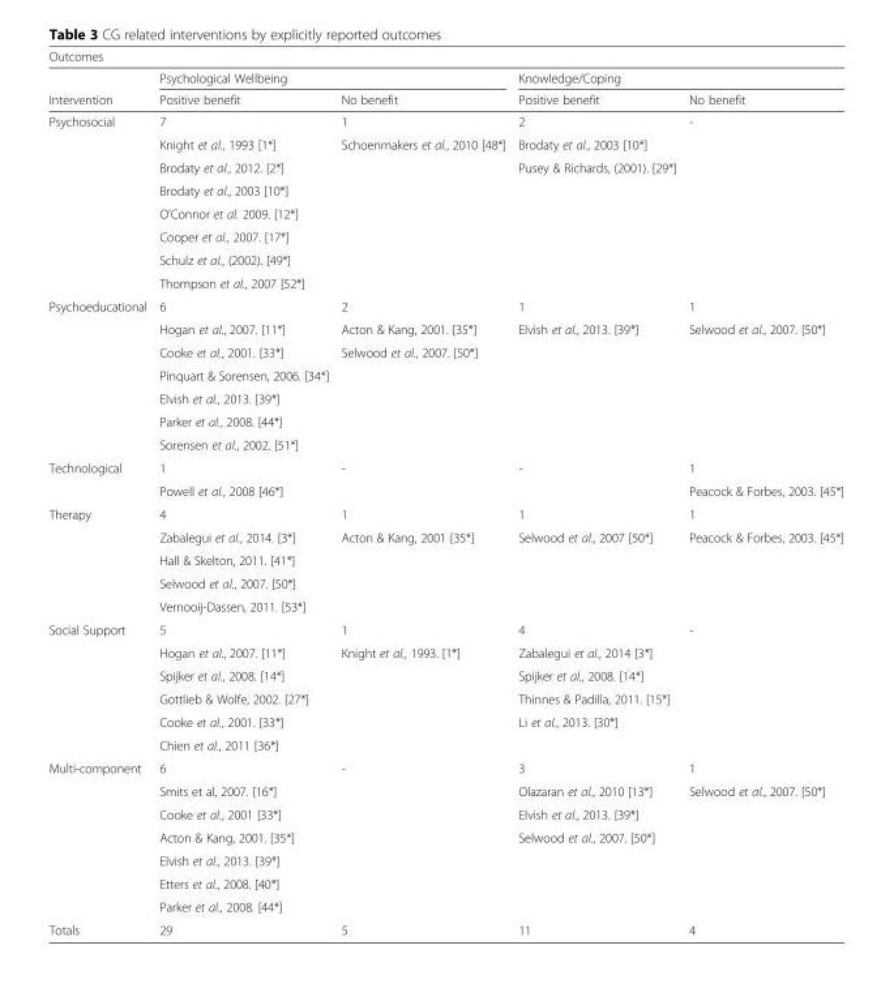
<table><thead><tr><td colspan="5">Outcomes</td></tr><tr><td rowspan="2">Intervention</td><td colspan="2">Psychological Wellbeing</td><td colspan="2">Knowledge/Coping</td></tr><tr><td>Positive benefit</td><td>No benefit</td><td>Positive benefit</td><td>No benefit</td></tr></thead><tbody><tr><td rowspan="8">Psychosocial</td><td>7</td><td>1</td><td>2</td><td>-</td></tr><tr><td>Knight et al., 1993 [1*]</td><td>Schoenmakers et al., 2010 [48*]</td><td>Brodaty et al., 2003 [10*]</td><td></td></tr><tr><td>Brodaty et al., 2012. [2*]</td><td></td><td>Pusey &amp; Richards, (2001). [29*]</td><td></td></tr><tr><td>Brodaty et al., 2003 [10*]</td><td></td><td></td><td></td></tr><tr><td>O’Connor et al. 2009. [12*]</td><td></td><td></td><td></td></tr><tr><td>Cooper et al., 2007. [17*]</td><td></td><td></td><td></td></tr><tr><td>Schulz et al., (2002). [49*]</td><td></td><td></td><td></td></tr><tr><td>Thompson et al., 2007 [52*]</td><td></td><td></td><td></td></tr><tr><td rowspan="7">Psychoeducational</td><td>6</td><td>2</td><td>1</td><td>1</td></tr><tr><td>Hogan et al., 2007. [11*]</td><td>Acton &amp; Kang, 2001. [35*]</td><td>Elvish et al., 2013. [39*]</td><td>Selwood et al., 2007. [50*]</td></tr><tr><td>Cooke et al., 2001. [33*]</td><td>Selwood et al., 2007. [50*]</td><td></td><td></td></tr><tr><td>Pinquart &amp; Sorensen, 2006. [34*]</td><td></td><td></td><td></td></tr><tr><td>Elvish et al., 2013. [39*]</td><td></td><td></td><td></td></tr><tr><td>Parker et al., 2008. [44*]</td><td></td><td></td><td></td></tr><tr><td>Sorensen et al., 2002. [51*]</td><td></td><td></td><td></td></tr><tr><td rowspan="2">Technological</td><td>1</td><td>-</td><td>-</td><td>1</td></tr><tr><td>Powell et al., 2008 [46*]</td><td></td><td></td><td>Peacock &amp; Forbes, 2003. [45*]</td></tr><tr><td rowspan="5">Therapy</td><td>4</td><td>1</td><td>1</td><td>1</td></tr><tr><td>Zabalegui et al., 2014. [3*]</td><td>Acton &amp; Kang, 2001 [35*]</td><td>Selwood et al., 2007 [50*]</td><td>Peacock &amp; Forbes, 2003. [45*]</td></tr><tr><td>Hall &amp; Skelton, 2011. [41*]</td><td></td><td></td><td></td></tr><tr><td>Selwood et al., 2007. [50*]</td><td></td><td></td><td></td></tr><tr><td>Vernooij-Dassen, 2011. [53*]</td><td></td><td></td><td></td></tr><tr><td rowspan="6">Social Support</td><td>5</td><td>1</td><td>4</td><td>-</td></tr><tr><td>Hogan et al., 2007. [11*]</td><td>Knight et al., 1993. [1*]</td><td>Zabalegui et al., 2014 [3*]</td><td></td></tr><tr><td>Spijker et al., 2008. [14*]</td><td></td><td>Spijker et al., 2008. [14*]</td><td></td></tr><tr><td>Gottlieb &amp; Wolfe, 2002. [27*]</td><td></td><td>Thinnes &amp; Padilla, 2011. [15*]</td><td></td></tr><tr><td>Cooke et al., 2001. [33*]</td><td></td><td>Li et al., 2013. [30*]</td><td></td></tr><tr><td>Chien et al., 2011 [36*]</td><td></td><td></td><td></td></tr><tr><td rowspan="7">Multi-component</td><td>6</td><td>-</td><td>3</td><td>1</td></tr><tr><td>Smits et al, 2007. [16*]</td><td></td><td>Olazaran et al., 2010 [13*]</td><td>Selwood et al., 2007. [50*]</td></tr><tr><td>Cooke et al., 2001 [33*]</td><td></td><td>Elvish et al., 2013. [39*]</td><td></td></tr><tr><td>Acton &amp; Kang, 2001. [35*]</td><td></td><td>Selwood et al., 2007. [50*]</td><td></td></tr><tr><td>Elvish et al., 2013. [39*]</td><td></td><td></td><td></td></tr><tr><td>Etters et al., 2008. [40*]</td><td></td><td></td><td></td></tr><tr><td>Parker et al., 2008. [44*]</td><td></td><td></td><td></td></tr><tr><td>Totals</td><td>29</td><td>5</td><td>11</td><td>4</td></tr></tbody></table>